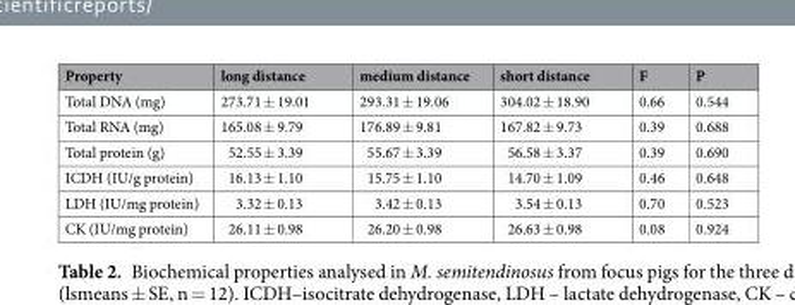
<table><thead><tr><td>Property</td><td>long distance</td><td>medium distance</td><td>short distance</td><td>F</td><td>P</td></tr></thead><tbody><tr><td>Total DNA (mg)</td><td>273.71 ± 19.01</td><td>293.31 ± 19.06</td><td>304.02 ± 18.90</td><td>0.66</td><td>0.544</td></tr><tr><td>Total RNA (mg)</td><td>165.08 ± 9.79</td><td>176.89 ± 9.81</td><td>167.82 ± 9.73</td><td>0.39</td><td>0.688</td></tr><tr><td>Total protein (g)</td><td>52.55 ± 3.39</td><td>55.67 ± 3.39</td><td>56.58 ± 3.37</td><td>0.39</td><td>0.690</td></tr><tr><td>ICDH (IU/g protein)</td><td>16.13 ± 1.10</td><td>15.75 ± 1.10</td><td>14.70 ± 1.09</td><td>0.46</td><td>0.648</td></tr><tr><td>LDH (IU/mg protein)</td><td>3.32 ± 0.13</td><td>3.42 ± 0.13</td><td>3.54 ± 0.13</td><td>0.70</td><td>0.523</td></tr><tr><td>CK (IU/mg protein)</td><td>26.11 ± 0.98</td><td>26.20 ± 0.98</td><td>26.63 ± 0.98</td><td>0.08</td><td>0.924</td></tr></tbody></table>